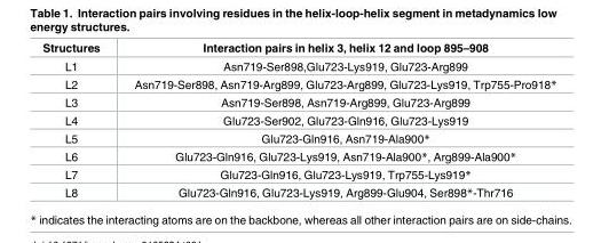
<table><thead><tr><td>Structures</td><td>Interaction pairs in helix 3, helix 12 and loop 895–908</td></tr></thead><tbody><tr><td>L1</td><td>Asn719-Ser898,Glu723-Lys919, Glu723-Arg899</td></tr><tr><td>L2</td><td>Asn719-Ser898, Asn719-Arg899, Glu723-Arg899, Glu723-Lys919, Trp755-Pro918*</td></tr><tr><td>L3</td><td>Asn719-Ser898, Asn719-Arg899, Glu723-Arg899</td></tr><tr><td>L4</td><td>Glu723-Ser902, Glu723-Gln916, Glu723-Lys919</td></tr><tr><td>L5</td><td>Glu723-Gln916, Asn719-Ala900*</td></tr><tr><td>L6</td><td>Glu723-Gln916, Glu723-Lys919, Asn719-Ala900*, Arg899-Ala900*</td></tr><tr><td>L7</td><td>Glu723-Gln916, Glu723-Lys919, Trp755-Lys919*</td></tr><tr><td>L8</td><td>Glu723-Gln916, Glu723-Lys919, Arg899-Glu904, Ser898*-Thr716</td></tr></tbody></table>